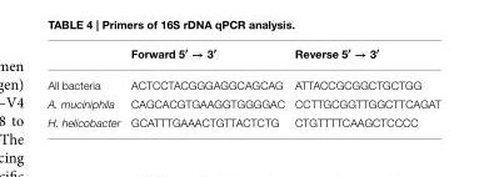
<table><thead><tr><td></td><td>Forward 5′ → 3′</td><td>Reverse 5′ → 3′</td></tr></thead><tbody><tr><td>All bacteria</td><td>ACTCCTACGGGAGGCAGCAG</td><td>ATTACCGCGGCTGCTGG</td></tr><tr><td>A. muciniphila</td><td>CAGCACGTGAAGGTGGGGAC</td><td>CCTTGCGGTTGGCTTCAGAT</td></tr><tr><td>H. helicobacter</td><td>GCATTTGAAACTGTTACTCTG</td><td>CTGTTTTCAAGCTCCCC</td></tr></tbody></table>